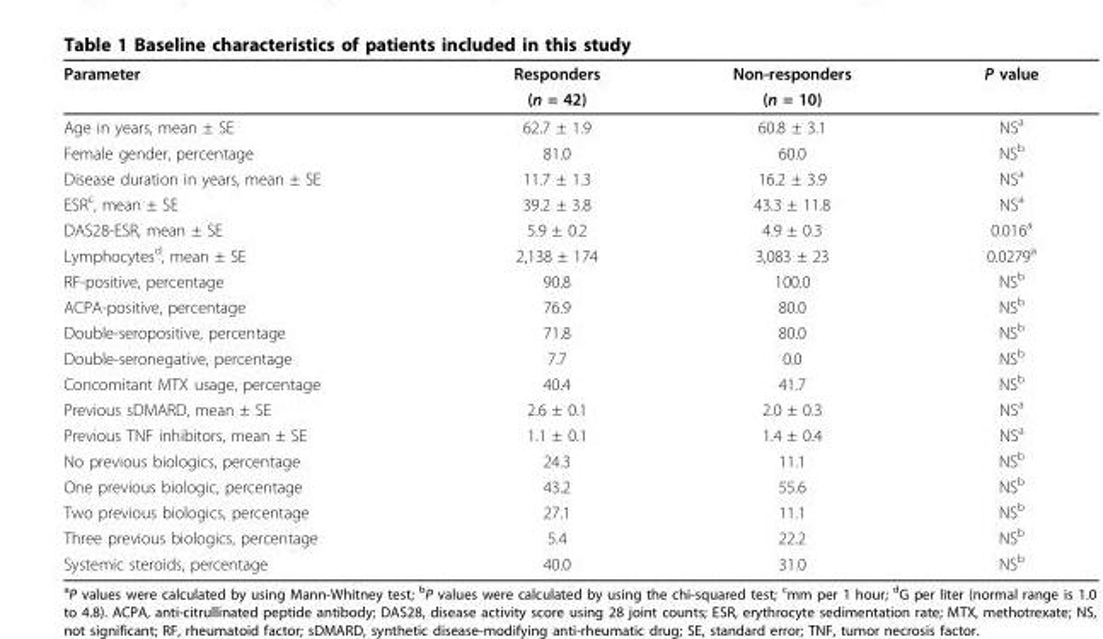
<table><thead><tr><td rowspan="2">Parameter</td><td rowspan="2">Responders (n = 42)</td><td rowspan="2">Non-responders (n = 10)</td><td rowspan="2">P value</td></tr><tr></tr></thead><tbody><tr><td>Age in years, mean ± SE</td><td>62.7 ± 1.9</td><td>60.8 ± 3.1</td><td>NS<sup>a</sup></td></tr><tr><td>Female gender, percentage</td><td>81.0</td><td>60.0</td><td>NS<sup>b</sup></td></tr><tr><td>Disease duration in years, mean ± SE</td><td>11.7 ± 1.3</td><td>16.2 ± 3.9</td><td>NS<sup>a</sup></td></tr><tr><td>ESR<sup>c</sup>, mean ± SE</td><td>39.2 ± 3.8</td><td>43.3 ± 11.8</td><td>NS<sup>a</sup></td></tr><tr><td>DAS28-ESR, mean ± SE</td><td>5.9 ± 0.2</td><td>4.9 ± 0.3</td><td>0.016<sup>a</sup></td></tr><tr><td>Lymphocytes<sup>d</sup>, mean ± SE</td><td>2,138 ± 174</td><td>3,083 ± 23</td><td>0.0279<sup>a</sup></td></tr><tr><td>RF-positive, percentage</td><td>90.8</td><td>100.0</td><td>NS<sup>b</sup></td></tr><tr><td>ACPA-positive, percentage</td><td>76.9</td><td>80.0</td><td>NS<sup>b</sup></td></tr><tr><td>Double-seropositive, percentage</td><td>71.8</td><td>80.0</td><td>NS<sup>b</sup></td></tr><tr><td>Double-seronegative, percentage</td><td>7.7</td><td>0.0</td><td>NS<sup>b</sup></td></tr><tr><td>Concomitant MTX usage, percentage</td><td>40.4</td><td>41.7</td><td>NS<sup>b</sup></td></tr><tr><td>Previous sDMARD, mean ± SE</td><td>2.6 ± 0.1</td><td>2.0 ± 0.3</td><td>NS<sup>a</sup></td></tr><tr><td>Previous TNF inhibitors, mean ± SE</td><td>1.1 ± 0.1</td><td>1.4 ± 0.4</td><td>NS<sup>a</sup></td></tr><tr><td>No previous biologics, percentage</td><td>24.3</td><td>11.1</td><td>NS<sup>b</sup></td></tr><tr><td>One previous biologic, percentage</td><td>43.2</td><td>55.6</td><td>NS<sup>b</sup></td></tr><tr><td>Two previous biologics, percentage</td><td>27.1</td><td>11.1</td><td>NS<sup>b</sup></td></tr><tr><td>Three previous biologics, percentage</td><td>5.4</td><td>22.2</td><td>NS<sup>b</sup></td></tr><tr><td>Systemic steroids, percentage</td><td>40.0</td><td>31.0</td><td>NS<sup>b</sup></td></tr></tbody></table>